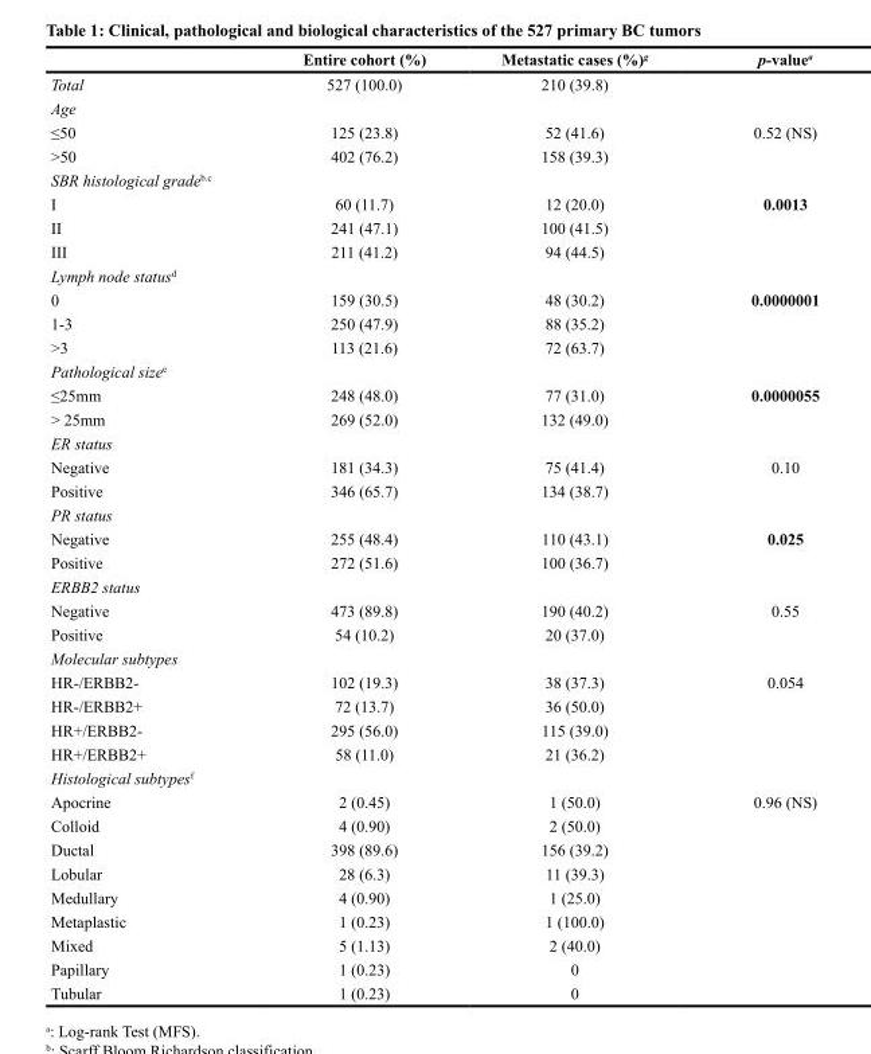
<table><thead><tr><td></td><td>Entire cohort (%)</td><td>Metastatic cases (%)<sup>g</sup></td><td>p-value<sup>a</sup></td></tr></thead><tbody><tr><td>Total</td><td>527 (100.0)</td><td>210 (39.8)</td><td></td></tr><tr><td colspan="4">Age</td></tr><tr><td>≤50</td><td>125 (23.8)</td><td>52 (41.6)</td><td>0.52 (NS)</td></tr><tr><td>&gt;50</td><td>402 (76.2)</td><td>158 (39.3)</td><td></td></tr><tr><td colspan="4">SBR histological grade<sup>b.c</sup></td></tr><tr><td>I</td><td>60 (11.7)</td><td>12 (20.0)</td><td>0.0013</td></tr><tr><td>II</td><td>241 (47.1)</td><td>100 (41.5)</td><td></td></tr><tr><td>III</td><td>211 (41.2)</td><td>94 (44.5)</td><td></td></tr><tr><td colspan="4">Lymph node status<sup>d</sup></td></tr><tr><td>0</td><td>159 (30.5)</td><td>48 (30.2)</td><td>0.0000001</td></tr><tr><td>1-3</td><td>250 (47.9)</td><td>88 (35.2)</td><td></td></tr><tr><td>&gt;3</td><td>113 (21.6)</td><td>72 (63.7)</td><td></td></tr><tr><td colspan="4">Pathological size<sup>e</sup></td></tr><tr><td>≤25mm</td><td>248 (48.0)</td><td>77 (31.0)</td><td>0.0000055</td></tr><tr><td>&gt; 25mm</td><td>269 (52.0)</td><td>132 (49.0)</td><td></td></tr><tr><td colspan="4">ER status</td></tr><tr><td>Negative</td><td>181 (34.3)</td><td>75 (41.4)</td><td>0.10</td></tr><tr><td>Positive</td><td>346 (65.7)</td><td>134 (38.7)</td><td></td></tr><tr><td colspan="4">PR status</td></tr><tr><td>Negative</td><td>255 (48.4)</td><td>110 (43.1)</td><td>0.025</td></tr><tr><td>Positive</td><td>272 (51.6)</td><td>100 (36.7)</td><td></td></tr><tr><td colspan="4">ERBB2 status</td></tr><tr><td>Negative</td><td>473 (89.8)</td><td>190 (40.2)</td><td>0.55</td></tr><tr><td>Positive</td><td>54 (10.2)</td><td>20 (37.0)</td><td></td></tr><tr><td colspan="4">Molecular subtypes</td></tr><tr><td>HR-/ERBB2-</td><td>102 (19.3)</td><td>38 (37.3)</td><td>0.054</td></tr><tr><td>HR-/ERBB2+</td><td>72 (13.7)</td><td>36 (50.0)</td><td></td></tr><tr><td>HR+/ERBB2-</td><td>295 (56.0)</td><td>115 (39.0)</td><td></td></tr><tr><td>HR+/ERBB2+</td><td>58 (11.0)</td><td>21 (36.2)</td><td></td></tr><tr><td colspan="4">Histological subtypes<sup>f</sup></td></tr><tr><td>Apocrine</td><td>2 (0.45)</td><td>1 (50.0)</td><td>0.96 (NS)</td></tr><tr><td>Colloid</td><td>4 (0.90)</td><td>2 (50.0)</td><td></td></tr><tr><td>Ductal</td><td>398 (89.6)</td><td>156 (39.2)</td><td></td></tr><tr><td>Lobular</td><td>28 (6.3)</td><td>11 (39.3)</td><td></td></tr><tr><td>Medullary</td><td>4 (0.90)</td><td>1 (25.0)</td><td></td></tr><tr><td>Metaplastic</td><td>1 (0.23)</td><td>1 (100.0)</td><td></td></tr><tr><td>Mixed</td><td>5 (1.13)</td><td>2 (40.0)</td><td></td></tr><tr><td>Papillary</td><td>1 (0.23)</td><td>0</td><td></td></tr><tr><td>Tubular</td><td>1 (0.23)</td><td>0</td><td></td></tr></tbody></table>